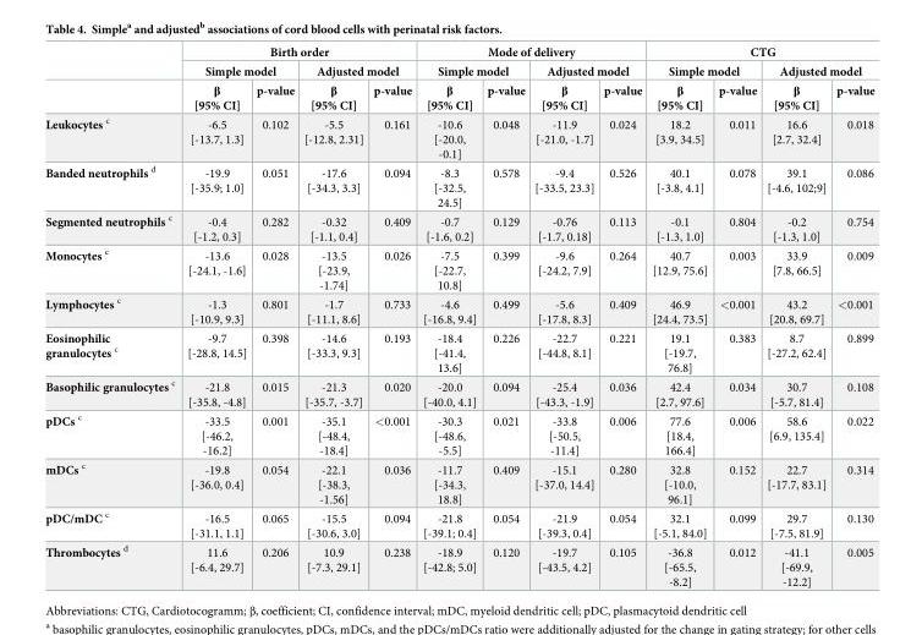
<table><thead><tr><td rowspan="3"></td><td colspan="4">Birth order</td><td colspan="4">Mode of delivery</td><td colspan="4">CTG</td></tr><tr><td colspan="2">Simple model</td><td colspan="2">Adjusted model</td><td colspan="2">Simple model</td><td colspan="2">Adjusted model</td><td colspan="2">Simple model</td><td colspan="2">Adjusted model</td></tr><tr><td>β [95% CI]</td><td>p-value</td><td>β [95% CI]</td><td>p-value</td><td>β [95% CI]</td><td>p-value</td><td>β [95% CI]</td><td>p-value</td><td>β [95% CI]</td><td>p-value</td><td>β [95% CI]</td><td>p-value</td></tr></thead><tbody><tr><td>Leukocytes <sup>c</sup></td><td>-6.5 [-13.7, 1.3]</td><td>0.102</td><td>-5.5 [-12.8, 2.31]</td><td>0.161</td><td>-10.6 [-20.0, -0.1]</td><td>0.048</td><td>-11.9 [-21.0, -1.7]</td><td>0.024</td><td>18.2 [3.9, 34.5]</td><td>0.011</td><td>16.6 [2.7, 32.4]</td><td>0.018</td></tr><tr><td>Banded neutrophils <sup>d</sup></td><td>-19.9 [-35.9; 1.0]</td><td>0.051</td><td>-17.6 [-34.3, 3.3]</td><td>0.094</td><td>-8.3 [-32.5, 24.5]</td><td>0.578</td><td>-9.4 [-33.5, 23.3]</td><td>0.526</td><td>40.1 [-3.8, 4.1]</td><td>0.078</td><td>39.1 [-4.6, 102;9]</td><td>0.086</td></tr><tr><td>Segmented neutrophils <sup>c</sup></td><td>-0.4 [-1.2, 0.3]</td><td>0.282</td><td>-0.32 [-1.1, 0.4]</td><td>0.409</td><td>-0.7 [-1.6, 0.2]</td><td>0.129</td><td>-0.76 [-1.7, 0.18]</td><td>0.113</td><td>-0.1 [-1.3, 1.0]</td><td>0.804</td><td>-0.2 [-1.3, 1.0]</td><td>0.754</td></tr><tr><td>Monocytes <sup>c</sup></td><td>-13.6 [-24.1, -1.6]</td><td>0.028</td><td>-13.5 [-23.9, -1.74]</td><td>0.026</td><td>-7.5 [-22.7, 10.8]</td><td>0.399</td><td>-9.6 [-24.2, 7.9]</td><td>0.264</td><td>40.7 [12.9, 75.6]</td><td>0.003</td><td>33.9 [7.8, 66.5]</td><td>0.009</td></tr><tr><td>Lymphocytes <sup>c</sup></td><td>-1.3 [-10.9, 9.3]</td><td>0.801</td><td>-1.7 [-11.1, 8.6]</td><td>0.733</td><td>-4.6 [-16.8, 9.4]</td><td>0.499</td><td>-5.6 [-17.8, 8.3]</td><td>0.409</td><td>46.9 [24.4, 73.5]</td><td>&lt;0.001</td><td>43.2 [20.8, 69.7]</td><td>&lt;0.001</td></tr><tr><td>Eosinophilic granulocytes <sup>c</sup></td><td>-9.7 [-28.8, 14.5]</td><td>0.398</td><td>-14.6 [-33.3, 9.3]</td><td>0.193</td><td>-18.4 [-41.4, 13.6]</td><td>0.226</td><td>-22.7 [-44.8, 8.1]</td><td>0.221</td><td>19.1 [-19.7, 76.8]</td><td>0.383</td><td>8.7 [-27.2, 62.4]</td><td>0.899</td></tr><tr><td>Basophilic granulocytes <sup>c</sup></td><td>-21.8 [-35.8, -4.8]</td><td>0.015</td><td>-21.3 [-35.7, -3.7]</td><td>0.020</td><td>-20.0 [-40.0, 4.1]</td><td>0.094</td><td>-25.4 [-43.3, -1.9]</td><td>0.036</td><td>42.4 [2.7, 97.6]</td><td>0.034</td><td>30.7 [-5.7, 81.4]</td><td>0.108</td></tr><tr><td>pDCs <sup>c</sup></td><td>-33.5 [-46.2, -16.2]</td><td>0.001</td><td>-35.1 [-48.4, -18.4]</td><td>&lt;0.001</td><td>-30.3 [-48.6, -5.5]</td><td>0.021</td><td>-33.8 [-50.5, -11.4]</td><td>0.006</td><td>77.6 [18.4, 166.4]</td><td>0.006</td><td>58.6 [6.9, 135.4]</td><td>0.022</td></tr><tr><td>mDCs <sup>c</sup></td><td>-19.8 [-36.0, 0.4]</td><td>0.054</td><td>-22.1 [-38.3, -1.56]</td><td>0.036</td><td>-11.7 [-34.3, 18.8]</td><td>0.409</td><td>-15.1 [-37.0, 14.4]</td><td>0.280</td><td>32.8 [-10.0, 96.1]</td><td>0.152</td><td>22.7 [-17.7, 83.1]</td><td>0.314</td></tr><tr><td>pDC/mDC <sup>c</sup></td><td>-16.5 [-31.1, 1.1]</td><td>0.065</td><td>-15.5 [-30.6, 3.0]</td><td>0.094</td><td>-21.8 [-39.1; 0.4]</td><td>0.054</td><td>-21.9 [-39.3, 0.4]</td><td>0.054</td><td>32.1 [-5.1, 84.0]</td><td>0.099</td><td>29.7 [-7.5, 81.9]</td><td>0.130</td></tr><tr><td>Thrombocytes <sup>d</sup></td><td>11.6 [-6.4, 29.7]</td><td>0.206</td><td>10.9 [-7.3, 29.1]</td><td>0.238</td><td>-18.9 [-42.8; 5.0]</td><td>0.120</td><td>-19.7 [-43.5, 4.2]</td><td>0.105</td><td>-36.8 [-65.5, -8.2]</td><td>0.012</td><td>-41.1 [-69.9, -12.2]</td><td>0.005</td></tr></tbody></table>